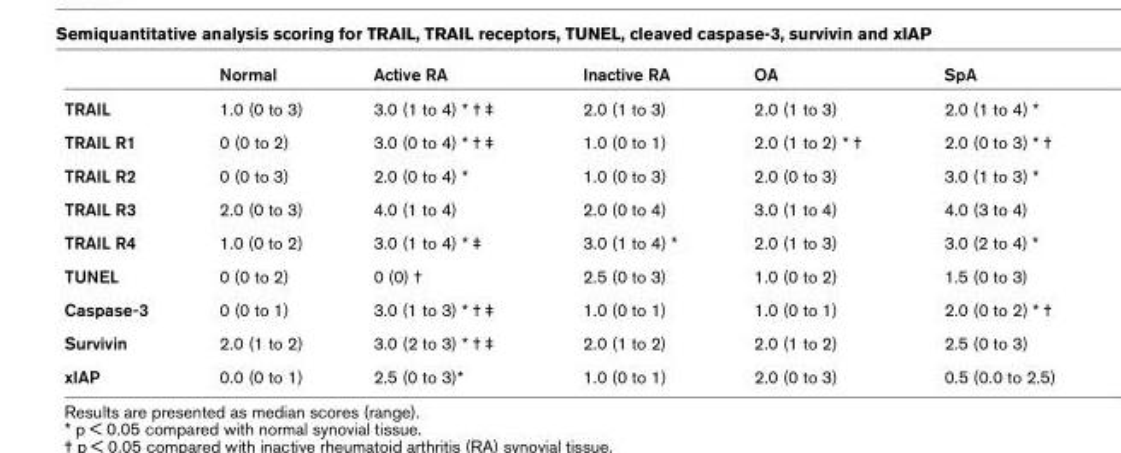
<table><thead><tr><td></td><td>Normal</td><td>Active RA</td><td>Inactive RA</td><td>OA</td><td>SpA</td></tr></thead><tbody><tr><td>TRAIL</td><td>1.0 (0 to 3)</td><td>3.0 (1 to 4) * † ‡</td><td>2.0 (1 to 3)</td><td>2.0 (1 to 3)</td><td>2.0 (1 to 4) *</td></tr><tr><td>TRAIL R1</td><td>0 (0 to 2)</td><td>3.0 (0 to 4) * † ‡</td><td>1.0 (0 to 1)</td><td>2.0 (1 to 2) * †</td><td>2.0 (0 to 3) * †</td></tr><tr><td>TRAIL R2</td><td>0 (0 to 3)</td><td>2.0 (0 to 4) *</td><td>1.0 (0 to 3)</td><td>2.0 (0 to 3)</td><td>3.0 (1 to 3) *</td></tr><tr><td>TRAIL R3</td><td>2.0 (0 to 3)</td><td>4.0 (1 to 4)</td><td>2.0 (0 to 4)</td><td>3.0 (1 to 4)</td><td>4.0 (3 to 4)</td></tr><tr><td>TRAIL R4</td><td>1.0 (0 to 2)</td><td>3.0 (1 to 4) * ‡</td><td>3.0 (1 to 4) *</td><td>2.0 (1 to 3)</td><td>3.0 (2 to 4) *</td></tr><tr><td>TUNEL</td><td>0 (0 to 2)</td><td>0 (0) †</td><td>2.5 (0 to 3)</td><td>1.0 (0 to 2)</td><td>1.5 (0 to 3)</td></tr><tr><td>Caspase-3</td><td>0 (0 to 1)</td><td>3.0 (1 to 3) * † ‡</td><td>1.0 (0 to 1)</td><td>1.0 (0 to 1)</td><td>2.0 (0 to 2) * †</td></tr><tr><td>Survivin</td><td>2.0 (1 to 2)</td><td>3.0 (2 to 3) * † ‡</td><td>2.0 (1 to 2)</td><td>2.0 (1 to 2)</td><td>2.5 (0 to 3)</td></tr><tr><td>xIAP</td><td>0.0 (0 to 1)</td><td>2.5 (0 to 3)*</td><td>1.0 (0 to 1)</td><td>2.0 (0 to 3)</td><td>0.5 (0.0 to 2.5)</td></tr></tbody></table>